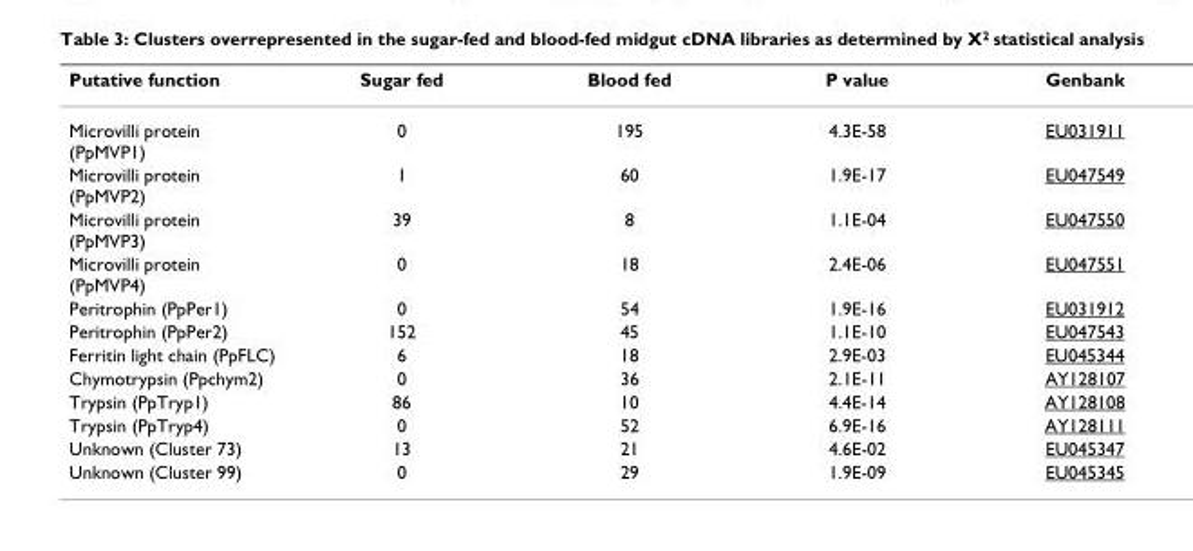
<table><thead><tr><td>Putative function</td><td>Sugar fed</td><td>Blood fed</td><td>P value</td><td>Genbank</td></tr></thead><tbody><tr><td>Microvilli protein (PpMVP1)</td><td>0</td><td>195</td><td>4.3E-58</td><td>EU031911</td></tr><tr><td>Microvilli protein (PpMVP2)</td><td>1</td><td>60</td><td>1.9E-17</td><td>EU047549</td></tr><tr><td>Microvilli protein (PpMVP3)</td><td>39</td><td>8</td><td>1.1E-04</td><td>EU047550</td></tr><tr><td>Microvilli protein (PpMVP4)</td><td>0</td><td>18</td><td>2.4E-06</td><td>EU047551</td></tr><tr><td>Peritrophin (PpPer1)</td><td>0</td><td>54</td><td>1.9E-16</td><td>EU031912</td></tr><tr><td>Peritrophin (PpPer2)</td><td>152</td><td>45</td><td>1.1E-10</td><td>EU047543</td></tr><tr><td>Ferritin light chain (PpFLC)</td><td>6</td><td>18</td><td>2.9E-03</td><td>EU045344</td></tr><tr><td>Chymotrypsin (Ppchym2)</td><td>0</td><td>36</td><td>2.1E-11</td><td>AY128107</td></tr><tr><td>Trypsin (PpTryp1)</td><td>86</td><td>10</td><td>4.4E-14</td><td>AY128108</td></tr><tr><td>Trypsin (PpTryp4)</td><td>0</td><td>52</td><td>6.9E-16</td><td>AY128111</td></tr><tr><td>Unknown (Cluster 73)</td><td>13</td><td>21</td><td>4.6E-02</td><td>EU045347</td></tr><tr><td>Unknown (Cluster 99)</td><td>0</td><td>29</td><td>1.9E-09</td><td>EU045345</td></tr></tbody></table>